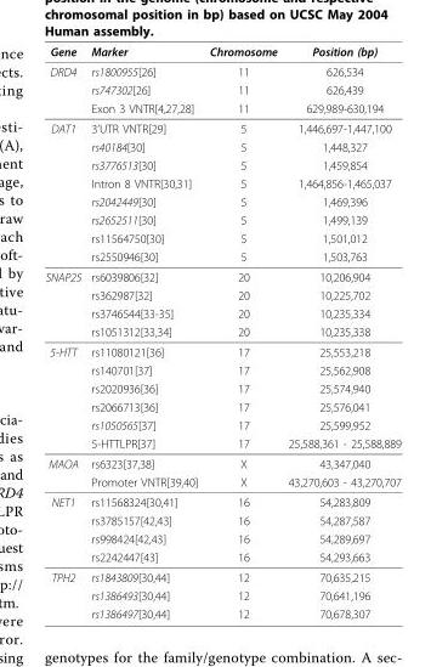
<table><thead><tr><td>Gene</td><td>Marker</td><td>Chromosome</td><td>Position (bp)</td></tr></thead><tbody><tr><td rowspan="3">DRD4</td><td>rs1800955[26]</td><td>11</td><td>626,534</td></tr><tr><td>rs747302[26]</td><td>11</td><td>626,439</td></tr><tr><td>Exon 3 VNTR[4,27,28]</td><td>11</td><td>629,989-630,194</td></tr><tr><td rowspan="8">DAT1</td><td>3’UTR VNTR[29]</td><td>5</td><td>1,446,697-1,447,100</td></tr><tr><td>rs40184[30]</td><td>5</td><td>1,448,327</td></tr><tr><td>rs3776513[30]</td><td>5</td><td>1,459,854</td></tr><tr><td>Intron 8 VNTR[30,31]</td><td>5</td><td>1,464,856-1,465,037</td></tr><tr><td>rs2042449[30]</td><td>5</td><td>1,469,396</td></tr><tr><td>rs2652511[30]</td><td>5</td><td>1,499,139</td></tr><tr><td>rs11564750[30]</td><td>5</td><td>1,501,012</td></tr><tr><td>rs2550946[30]</td><td>5</td><td>1,503,763</td></tr><tr><td rowspan="4">SNAP25</td><td>rs6039806[32]</td><td>20</td><td>10,206,904</td></tr><tr><td>rs362987[32]</td><td>20</td><td>10,225,702</td></tr><tr><td>rs3746544[33-35]</td><td>20</td><td>10,235,334</td></tr><tr><td>rs1051312[33,34]</td><td>20</td><td>10,235,338</td></tr><tr><td rowspan="6">5-HTT</td><td>rs11080121[36]</td><td>17</td><td>25,553,218</td></tr><tr><td>rs140701[37]</td><td>17</td><td>25,562,908</td></tr><tr><td>rs2020936[36]</td><td>17</td><td>25,574,940</td></tr><tr><td>rs2066713[36]</td><td>17</td><td>25,576,041</td></tr><tr><td>rs1050565[37]</td><td>17</td><td>25,599,952</td></tr><tr><td>5-HTTLPR[37]</td><td>17</td><td>25,588,361 - 25,588,889</td></tr><tr><td rowspan="2">MAOA</td><td>rs6323[37,38]</td><td>X</td><td>43,347,040</td></tr><tr><td>Promoter VNTR[39,40]</td><td>X</td><td>43,270,603 - 43,270,707</td></tr><tr><td rowspan="4">NET1</td><td>rs11568324[30,41]</td><td>16</td><td>54,283,809</td></tr><tr><td>rs3785157[42,43]</td><td>16</td><td>54,287,587</td></tr><tr><td>rs998424[42,43]</td><td>16</td><td>54,289,697</td></tr><tr><td>rs2242447[43]</td><td>16</td><td>54,293,663</td></tr><tr><td rowspan="3">TPH2</td><td>rs1843809[30,44]</td><td>12</td><td>70,635,215</td></tr><tr><td>rs1386493[30,44]</td><td>12</td><td>70,641,196</td></tr><tr><td>rs1386497[30,44]</td><td>12</td><td>70,678,307</td></tr></tbody></table>